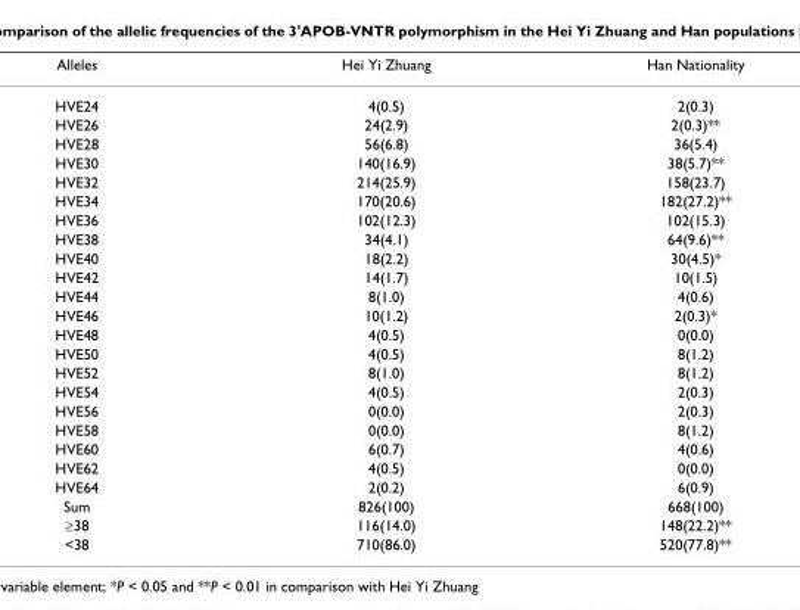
<table><thead><tr><td>Alleles</td><td>Hei Yi Zhuang</td><td>Han Nationality</td></tr></thead><tbody><tr><td>HVE24</td><td>4(0.5)</td><td>2(0.3)</td></tr><tr><td>HVE26</td><td>24(2.9)</td><td>2(0.3)**</td></tr><tr><td>HVE28</td><td>56(6.8)</td><td>36(5.4)</td></tr><tr><td>HVE30</td><td>140(16.9)</td><td>38(5.7)**</td></tr><tr><td>HVE32</td><td>214(25.9)</td><td>158(23.7)</td></tr><tr><td>HVE34</td><td>170(20.6)</td><td>182(27.2)**</td></tr><tr><td>HVE36</td><td>102(12.3)</td><td>102(15.3)</td></tr><tr><td>HVE38</td><td>34(4.1)</td><td>64(9.6)**</td></tr><tr><td>HVE40</td><td>18(2.2)</td><td>30(4.5)*</td></tr><tr><td>HVE42</td><td>14(1.7)</td><td>10(1.5)</td></tr><tr><td>HVE44</td><td>8(1.0)</td><td>4(0.6)</td></tr><tr><td>HVE46</td><td>10(1.2)</td><td>2(0.3)*</td></tr><tr><td>HVE48</td><td>4(0.5)</td><td>0(0.0)</td></tr><tr><td>HVE50</td><td>4(0.5)</td><td>8(1.2)</td></tr><tr><td>HVE52</td><td>8(1.0)</td><td>8(1.2)</td></tr><tr><td>HVE54</td><td>4(0.5)</td><td>2(0.3)</td></tr><tr><td>HVE56</td><td>0(0.0)</td><td>2(0.3)</td></tr><tr><td>HVE58</td><td>0(0.0)</td><td>8(1.2)</td></tr><tr><td>HVE60</td><td>6(0.7)</td><td>4(0.6)</td></tr><tr><td>HVE62</td><td>4(0.5)</td><td>0(0.0)</td></tr><tr><td>HVE64</td><td>2(0.2)</td><td>6(0.9)</td></tr><tr><td>Sum</td><td>826(100)</td><td>668(100)</td></tr><tr><td>≥38</td><td>116(14.0)</td><td>148(22.2)**</td></tr><tr><td>&lt;38</td><td>710(86.0)</td><td>520(77.8)**</td></tr></tbody></table>